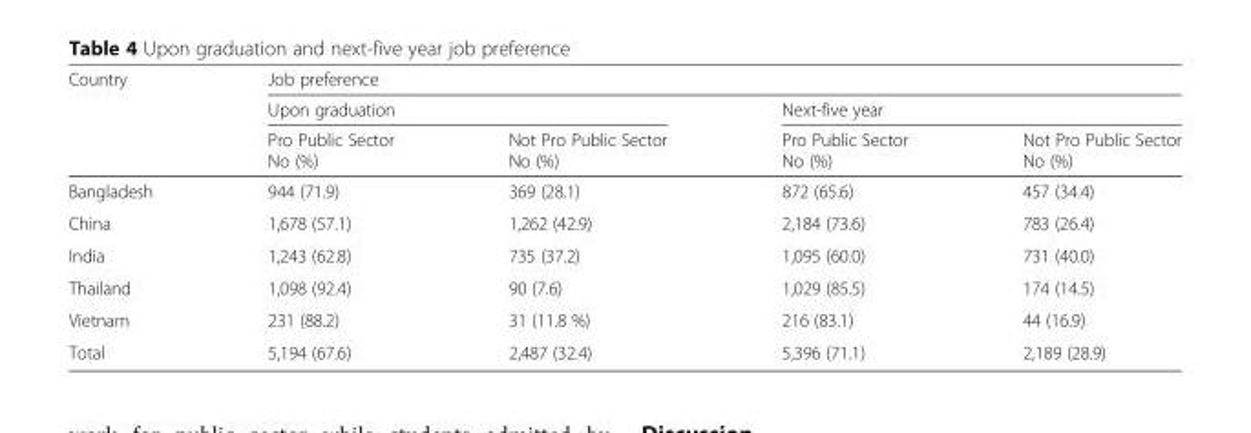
<table><thead><tr><td rowspan="3">Country</td><td colspan="4">Job preference</td></tr><tr><td colspan="2">Upon graduation</td><td colspan="2">Next-five year</td></tr><tr><td>Pro Public Sector No (%)</td><td>Not Pro Public Sector No (%)</td><td>Pro Public Sector No (%)</td><td>Not Pro Public Sector No (%)</td></tr></thead><tbody><tr><td>Bangladesh</td><td>944 (71.9)</td><td>369 (28.1)</td><td>872 (65.6)</td><td>457 (34.4)</td></tr><tr><td>China</td><td>1,678 (57.1)</td><td>1,262 (42.9)</td><td>2,184 (73.6)</td><td>783 (26.4)</td></tr><tr><td>India</td><td>1,243 (62.8)</td><td>735 (37.2)</td><td>1,095 (60.0)</td><td>731 (40.0)</td></tr><tr><td>Thailand</td><td>1,098 (92.4)</td><td>90 (7.6)</td><td>1,029 (85.5)</td><td>174 (14.5)</td></tr><tr><td>Vietnam</td><td>231 (88.2)</td><td>31 (11.8 %)</td><td>216 (83.1)</td><td>44 (16.9)</td></tr><tr><td>Total</td><td>5,194 (67.6)</td><td>2,487 (32.4)</td><td>5,396 (71.1)</td><td>2,189 (28.9)</td></tr></tbody></table>